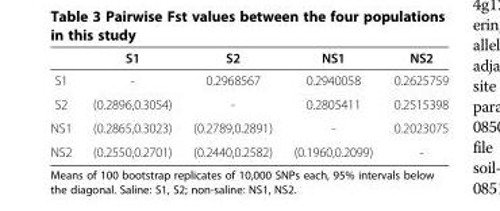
<table><thead><tr><td></td><td>S1</td><td>S2</td><td>NS1</td><td>NS2</td></tr></thead><tbody><tr><td>S1</td><td>-</td><td>0.2968567</td><td>0.2940058</td><td>0.2625759</td></tr><tr><td>S2</td><td>(0.2896,0.3054)</td><td>-</td><td>0.2805411</td><td>0.2515398</td></tr><tr><td>NS1</td><td>(0.2865,0.3023)</td><td>(0.2789,0.2891)</td><td>-</td><td>0.2023075</td></tr><tr><td>NS2</td><td>(0.2550,0.2701)</td><td>(0.2440,0.2582)</td><td>(0.1960,0.2099)</td><td>-</td></tr></tbody></table>